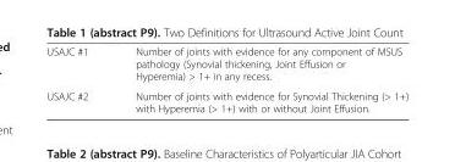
<table><tbody><tr><td>USAJC #1</td><td>Number of joints with evidence for any component of MSUS pathology (Synovial thickening, Joint Effusion or Hyperemia) &gt; 1+ in any recess.</td></tr><tr><td>USAJC #2</td><td>Number of joints with evidence for Synovial Thickening (&gt; 1+) with Hyperemia (&gt; 1+) with or without Joint Effusion.</td></tr></tbody></table>